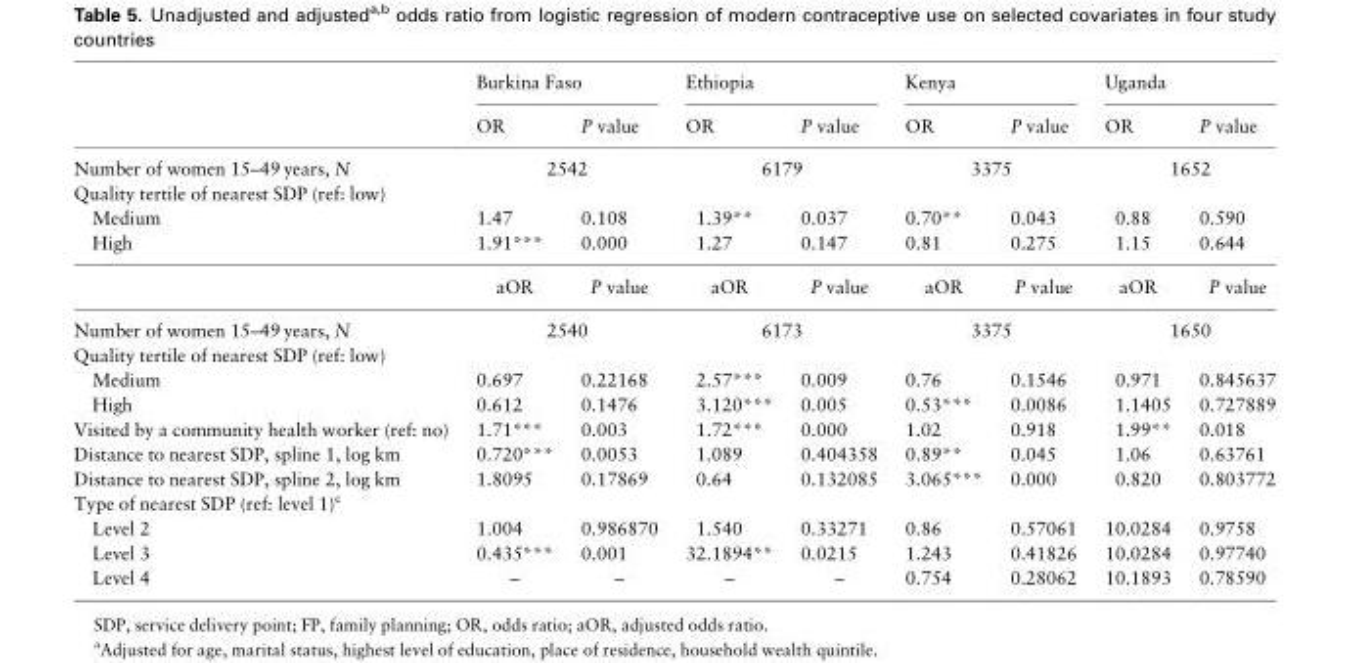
<table><thead><tr><td rowspan="2"></td><td colspan="2">Burkina Faso</td><td colspan="2">Ethiopia</td><td colspan="2">Kenya</td><td colspan="2">Uganda</td></tr><tr><td>OR</td><td>P value</td><td>OR</td><td>P value</td><td>OR</td><td>P value</td><td>OR</td><td>P value</td></tr></thead><tbody><tr><td>Number of women 15–49 years, N</td><td colspan="2">2542</td><td colspan="2">6179</td><td colspan="2">3375</td><td colspan="2">1652</td></tr><tr><td colspan="9">Quality tertile of nearest SDP (ref: low)</td></tr><tr><td>Medium</td><td>1.47</td><td>0.108</td><td>1.39**</td><td>0.037</td><td>0.70**</td><td>0.043</td><td>0.88</td><td>0.590</td></tr><tr><td rowspan="2">High</td><td>1.91***</td><td>0.000</td><td>1.27</td><td>0.147</td><td>0.81</td><td>0.275</td><td>1.15</td><td>0.644</td></tr><tr><td>aOR</td><td>P value</td><td>aOR</td><td>P value</td><td>aOR</td><td>P value</td><td>aOR</td><td>P value</td></tr><tr><td>Number of women 15–49 years, N</td><td colspan="2">2540</td><td colspan="2">6173</td><td colspan="2">3375</td><td colspan="2">1650</td></tr><tr><td colspan="9">Quality tertile of nearest SDP (ref: low)</td></tr><tr><td>Medium</td><td>0.697</td><td>0.22168</td><td>2.57***</td><td>0.009</td><td>0.76</td><td>0.1546</td><td>0.971</td><td>0.845637</td></tr><tr><td>High</td><td>0.612</td><td>0.1476</td><td>3.120***</td><td>0.005</td><td>0.53***</td><td>0.0086</td><td>1.1405</td><td>0.727889</td></tr><tr><td>Visited by a community health worker (ref: no)</td><td>1.71***</td><td>0.003</td><td>1.72***</td><td>0.000</td><td>1.02</td><td>0.918</td><td>1.99**</td><td>0.018</td></tr><tr><td>Distance to nearest SDP, spline 1, log km</td><td>0.720***</td><td>0.0053</td><td>1.089</td><td>0.404358</td><td>0.89**</td><td>0.045</td><td>1.06</td><td>0.63761</td></tr><tr><td>Distance to nearest SDP, spline 2, log km</td><td>1.8095</td><td>0.17869</td><td>0.64</td><td>0.132085</td><td>3.065***</td><td>0.000</td><td>0.820</td><td>0.803772</td></tr><tr><td colspan="9">Type of nearest SDP (ref: level 1)<sup>c</sup></td></tr><tr><td>Level 2</td><td>1.004</td><td>0.986870</td><td>1.540</td><td>0.33271</td><td>0.86</td><td>0.57061</td><td>10.0284</td><td>0.9758</td></tr><tr><td>Level 3</td><td>0.435***</td><td>0.001</td><td>32.1894**</td><td>0.0215</td><td>1.243</td><td>0.41826</td><td>10.0284</td><td>0.97740</td></tr><tr><td>Level 4</td><td>–</td><td>–</td><td>–</td><td>–</td><td>0.754</td><td>0.28062</td><td>10.1893</td><td>0.78590</td></tr></tbody></table>